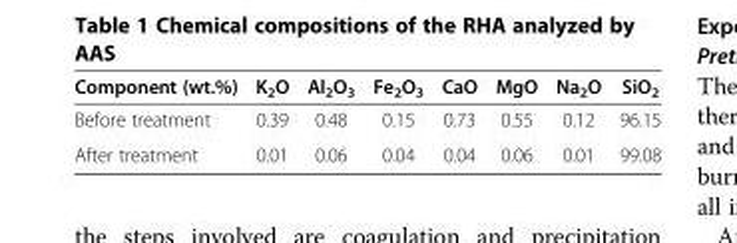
<table><thead><tr><td>Component (wt.%)</td><td>K<sub>2</sub>O</td><td>Al<sub>2</sub>O<sub>3</sub></td><td>Fe<sub>2</sub>O<sub>3</sub></td><td>CaO</td><td>MgO</td><td>Na<sub>2</sub>O</td><td>SiO<sub>2</sub></td></tr></thead><tbody><tr><td>Before treatment</td><td>0.39</td><td>0.48</td><td>0.15</td><td>0.73</td><td>0.55</td><td>0.12</td><td>96.15</td></tr><tr><td>After treatment</td><td>0.01</td><td>0.06</td><td>0.04</td><td>0.04</td><td>0.06</td><td>0.01</td><td>99.08</td></tr></tbody></table>